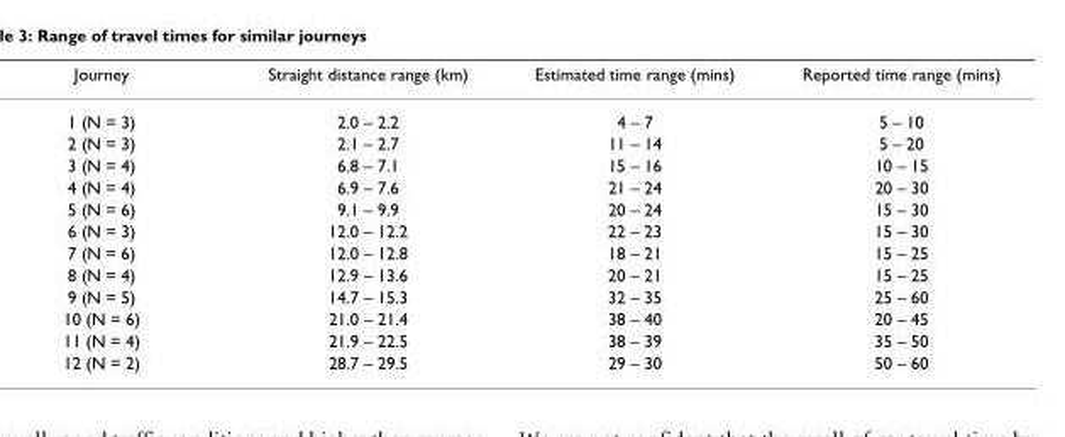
<table><thead><tr><td>Journey</td><td>Straight distance range (km)</td><td>Estimated time range (mins)</td><td>Reported time range (mins)</td></tr></thead><tbody><tr><td>1 (N = 3)</td><td>2.0 – 2.2</td><td>4 – 7</td><td>5 – 10</td></tr><tr><td>2 (N = 3)</td><td>2.1 – 2.7</td><td>11 – 14</td><td>5 – 20</td></tr><tr><td>3 (N = 4)</td><td>6.8 – 7.1</td><td>15 – 16</td><td>10 – 15</td></tr><tr><td>4 (N = 4)</td><td>6.9 – 7.6</td><td>21 – 24</td><td>20 – 30</td></tr><tr><td>5 (N = 6)</td><td>9.1 – 9.9</td><td>20 – 24</td><td>15 – 30</td></tr><tr><td>6 (N = 3)</td><td>12.0 – 12.2</td><td>22 – 23</td><td>15 – 30</td></tr><tr><td>7 (N = 6)</td><td>12.0 – 12.8</td><td>18 – 21</td><td>15 – 25</td></tr><tr><td>8 (N = 4)</td><td>12.9 – 13.6</td><td>20 – 21</td><td>15 – 25</td></tr><tr><td>9 (N = 5)</td><td>14.7 – 15.3</td><td>32 – 35</td><td>25 – 60</td></tr><tr><td>10 (N = 6)</td><td>21.0 – 21.4</td><td>38 – 40</td><td>20 – 45</td></tr><tr><td>11 (N = 4)</td><td>21.9 – 22.5</td><td>38 – 39</td><td>35 – 50</td></tr><tr><td>12 (N = 2)</td><td>28.7 – 29.5</td><td>29 – 30</td><td>50 – 60</td></tr></tbody></table>